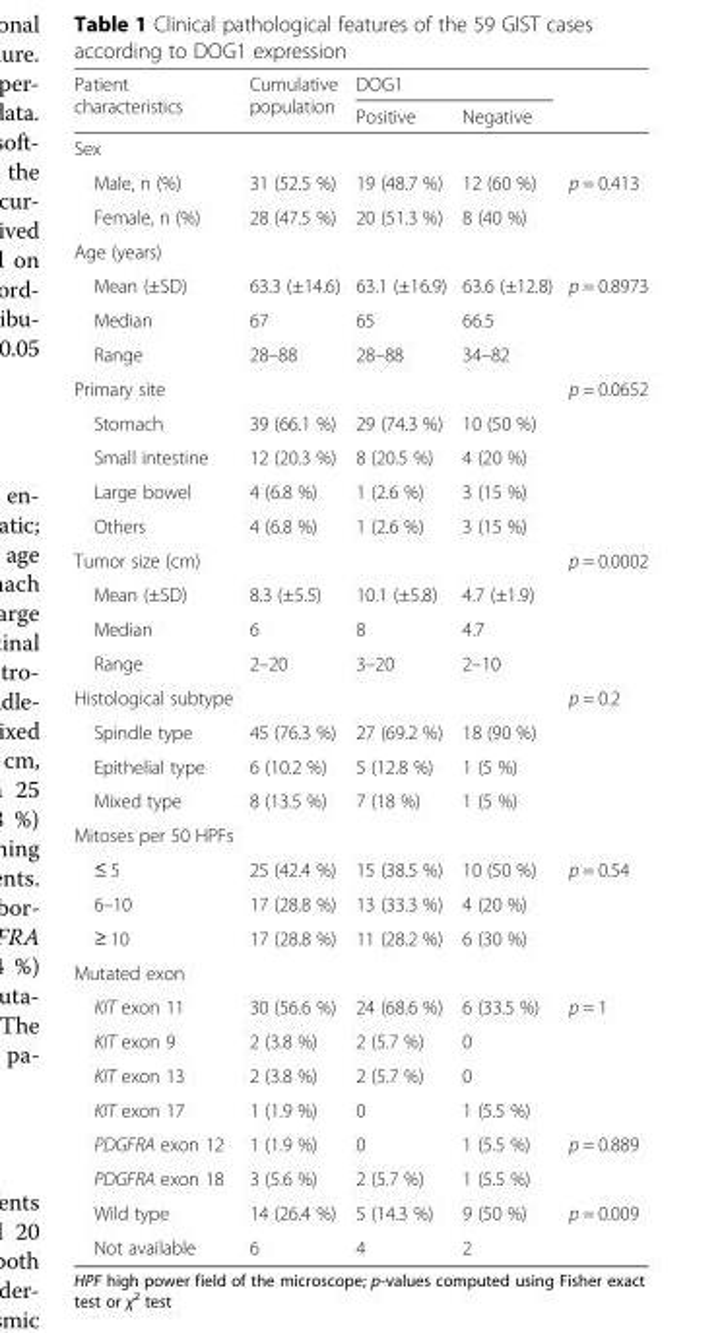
<table><thead><tr><td rowspan="2">Patient characteristics</td><td rowspan="2">Cumulative population</td><td colspan="2">DOG1</td><td rowspan="2"></td></tr><tr><td>Positive</td><td>Negative</td></tr></thead><tbody><tr><td colspan="5">Sex</td></tr><tr><td>Male, n (%)</td><td>31 (52.5 %)</td><td>19 (48.7 %)</td><td>12 (60 %)</td><td rowspan="2">p = 0.413</td></tr><tr><td>Female, n (%)</td><td>28 (47.5 %)</td><td>20 (51.3 %)</td><td>8 (40 %)</td></tr><tr><td colspan="5">Age (years)</td></tr><tr><td>Mean (±SD)</td><td>63.3 (±14.6)</td><td>63.1 (±16.9)</td><td>63.6 (±12.8)</td><td rowspan="3">p = 0.8973</td></tr><tr><td>Median</td><td>67</td><td>65</td><td>66.5</td></tr><tr><td>Range</td><td>28–88</td><td>28–88</td><td>34–82</td></tr><tr><td colspan="4">Primary site</td><td rowspan="5">p = 0.0652</td></tr><tr><td>Stomach</td><td>39 (66.1 %)</td><td>29 (74.3 %)</td><td>10 (50 %)</td></tr><tr><td>Small intestine</td><td>12 (20.3 %)</td><td>8 (20.5 %)</td><td>4 (20 %)</td></tr><tr><td>Large bowel</td><td>4 (6.8 %)</td><td>1 (2.6 %)</td><td>3 (15 %)</td></tr><tr><td>Others</td><td>4 (6.8 %)</td><td>1 (2.6 %)</td><td>3 (15 %)</td></tr><tr><td colspan="4">Tumor size (cm)</td><td rowspan="4">p = 0.0002</td></tr><tr><td>Mean (±SD)</td><td>8.3 (±5.5)</td><td>10.1 (±5.8)</td><td>4.7 (±1.9)</td></tr><tr><td>Median</td><td>6</td><td>8</td><td>4.7</td></tr><tr><td>Range</td><td>2–20</td><td>3–20</td><td>2–10</td></tr><tr><td colspan="4">Histological subtype</td><td rowspan="4">p = 0.2</td></tr><tr><td>Spindle type</td><td>45 (76.3 %)</td><td>27 (69.2 %)</td><td>18 (90 %)</td></tr><tr><td>Epithelial type</td><td>6 (10.2 %)</td><td>5 (12.8 %)</td><td>1 (5 %)</td></tr><tr><td>Mixed type</td><td>8 (13.5 %)</td><td>7 (18 %)</td><td>1 (5 %)</td></tr><tr><td colspan="5">Mitoses per 50 HPFs</td></tr><tr><td>≤ 5</td><td>25 (42.4 %)</td><td>15 (38.5 %)</td><td>10 (50 %)</td><td rowspan="3">p = 0.54</td></tr><tr><td>6–10</td><td>17 (28.8 %)</td><td>13 (33.3 %)</td><td>4 (20 %)</td></tr><tr><td>≥ 10</td><td>17 (28.8 %)</td><td>11 (28.2 %)</td><td>6 (30 %)</td></tr><tr><td colspan="5">Mutated exon</td></tr><tr><td>KIT exon 11</td><td>30 (56.6 %)</td><td>24 (68.6 %)</td><td>6 (33.5 %)</td><td rowspan="4">p = 1</td></tr><tr><td>KIT exon 9</td><td>2 (3.8 %)</td><td>2 (5.7 %)</td><td>0</td></tr><tr><td>KIT exon 13</td><td>2 (3.8 %)</td><td>2 (5.7 %)</td><td>0</td></tr><tr><td>KIT exon 17</td><td>1 (1.9 %)</td><td>0</td><td>1 (5.5 %)</td></tr><tr><td>PDGFRA exon 12</td><td>1 (1.9 %)</td><td>0</td><td>1 (5.5 %)</td><td rowspan="2">p = 0.889</td></tr><tr><td>PDGFRA exon 18</td><td>3 (5.6 %)</td><td>2 (5.7 %)</td><td>1 (5.5 %)</td></tr><tr><td>Wild type</td><td>14 (26.4 %)</td><td>5 (14.3 %)</td><td>9 (50 %)</td><td rowspan="2">p = 0.009</td></tr><tr><td>Not available</td><td>6</td><td>4</td><td>2</td></tr></tbody></table>